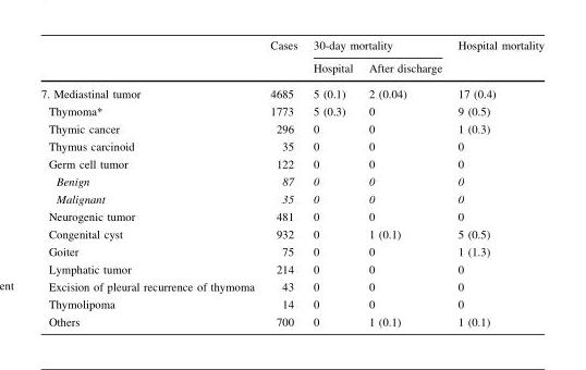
<table><thead><tr><td rowspan="2"></td><td rowspan="2">Cases</td><td colspan="2">30-day mortality</td><td rowspan="2">Hospital mortality</td></tr><tr><td>Hospital</td><td>After discharge</td></tr></thead><tbody><tr><td>7. Mediastinal tumor</td><td>4685</td><td>5 (0.1)</td><td>2 (0.04)</td><td>17 (0.4)</td></tr><tr><td>Thymoma*</td><td>1773</td><td>5 (0.3)</td><td>0</td><td>9 (0.5)</td></tr><tr><td>Thymic cancer</td><td>296</td><td>0</td><td>0</td><td>1 (0.3)</td></tr><tr><td>Thymus carcinoid</td><td>35</td><td>0</td><td>0</td><td>0</td></tr><tr><td>Germ cell tumor</td><td>122</td><td>0</td><td>0</td><td>0</td></tr><tr><td>Benign</td><td>87</td><td>0</td><td>0</td><td>0</td></tr><tr><td>Malignant</td><td>35</td><td>0</td><td>0</td><td>0</td></tr><tr><td>Neurogenic tumor</td><td>481</td><td>0</td><td>0</td><td>0</td></tr><tr><td>Congenital cyst</td><td>932</td><td>0</td><td>1 (0.1)</td><td>5 (0.5)</td></tr><tr><td>Goiter</td><td>75</td><td>0</td><td>0</td><td>1 (1.3)</td></tr><tr><td>Lymphatic tumor</td><td>214</td><td>0</td><td>0</td><td>0</td></tr><tr><td>Excision of pleural recurrence of thymoma</td><td>43</td><td>0</td><td>0</td><td>0</td></tr><tr><td>Thymolipoma</td><td>14</td><td>0</td><td>0</td><td>0</td></tr><tr><td>Others</td><td>700</td><td>0</td><td>1 (0.1)</td><td>1 (0.1)</td></tr></tbody></table>